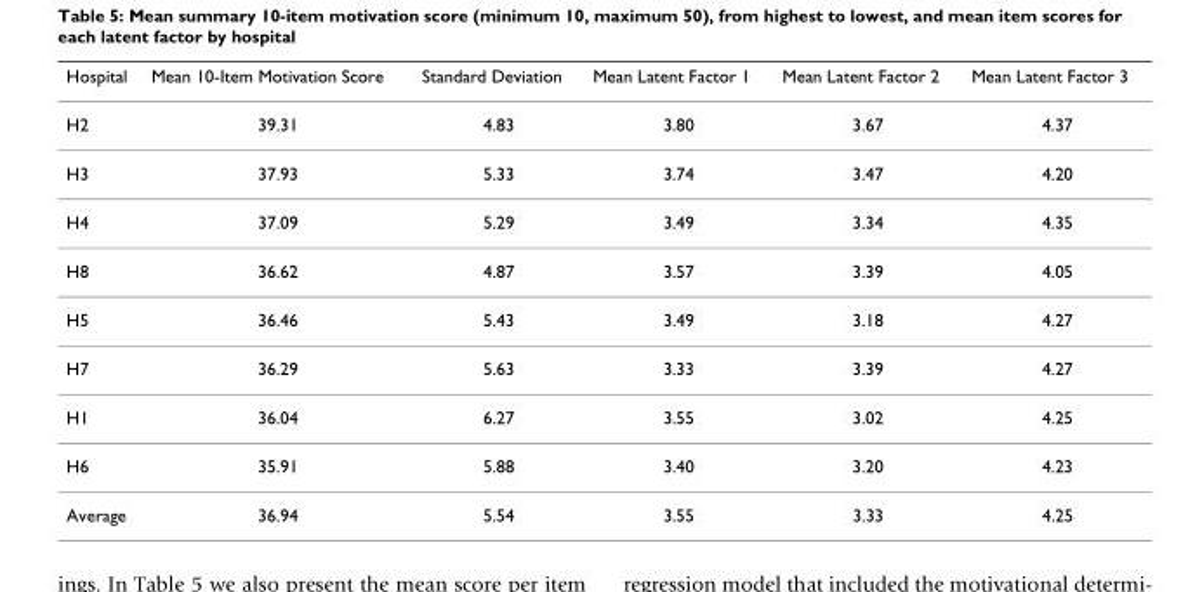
<table><thead><tr><td>Hospital</td><td>Mean 10-Item Motivation Score</td><td>Standard Deviation</td><td>Mean Latent Factor 1</td><td>Mean Latent Factor 2</td><td>Mean Latent Factor 3</td></tr></thead><tbody><tr><td>H2</td><td>39.31</td><td>4.83</td><td>3.80</td><td>3.67</td><td>4.37</td></tr><tr><td>H3</td><td>37.93</td><td>5.33</td><td>3.74</td><td>3.47</td><td>4.20</td></tr><tr><td>H4</td><td>37.09</td><td>5.29</td><td>3.49</td><td>3.34</td><td>4.35</td></tr><tr><td>H8</td><td>36.62</td><td>4.87</td><td>3.57</td><td>3.39</td><td>4.05</td></tr><tr><td>H5</td><td>36.46</td><td>5.43</td><td>3.49</td><td>3.18</td><td>4.27</td></tr><tr><td>H7</td><td>36.29</td><td>5.63</td><td>3.33</td><td>3.39</td><td>4.27</td></tr><tr><td>H1</td><td>36.04</td><td>6.27</td><td>3.55</td><td>3.02</td><td>4.25</td></tr><tr><td>H6</td><td>35.91</td><td>5.88</td><td>3.40</td><td>3.20</td><td>4.23</td></tr><tr><td>Average</td><td>36.94</td><td>5.54</td><td>3.55</td><td>3.33</td><td>4.25</td></tr></tbody></table>